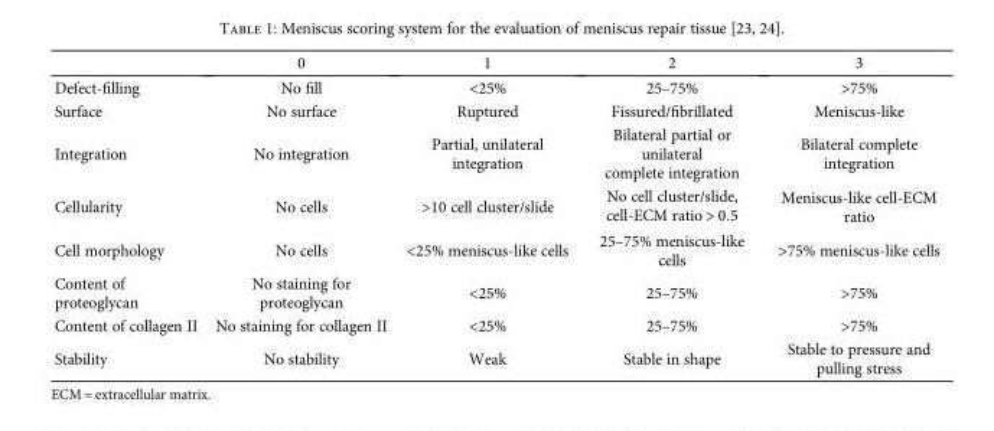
<table><thead><tr><td></td><td>0</td><td>1</td><td>2</td><td>3</td></tr></thead><tbody><tr><td>Defect-filling</td><td>No fill</td><td>&lt;25%</td><td>25–75%</td><td>&gt;75%</td></tr><tr><td>Surface</td><td>No surface</td><td>Ruptured</td><td>Fissured/fibrillated</td><td>Meniscus-like</td></tr><tr><td>Integration</td><td>No integration</td><td>Partial, unilateral integration</td><td>Bilateral partial or unilateral complete integration</td><td>Bilateral complete integration</td></tr><tr><td>Cellularity</td><td>No cells</td><td>&gt;10 cell cluster/slide</td><td>No cell cluster/slide, cell-ECM ratio &gt; 0 5</td><td>Meniscus-like cell-ECM ratio</td></tr><tr><td>Cell morphology</td><td>No cells</td><td>&lt;25% meniscus-like cells</td><td>25–75% meniscus-like cells</td><td>&gt;75% meniscus-like cells</td></tr><tr><td>Content of proteoglycan</td><td>No staining for proteoglycan</td><td>&lt;25%</td><td>25–75%</td><td>&gt;75%</td></tr><tr><td>Content of collagen II</td><td>No staining for collagen II</td><td>&lt;25%</td><td>25–75%</td><td>&gt;75%</td></tr><tr><td>Stability</td><td>No stability</td><td>Weak</td><td>Stable in shape</td><td>Stable to pressure and pulling stress</td></tr></tbody></table>